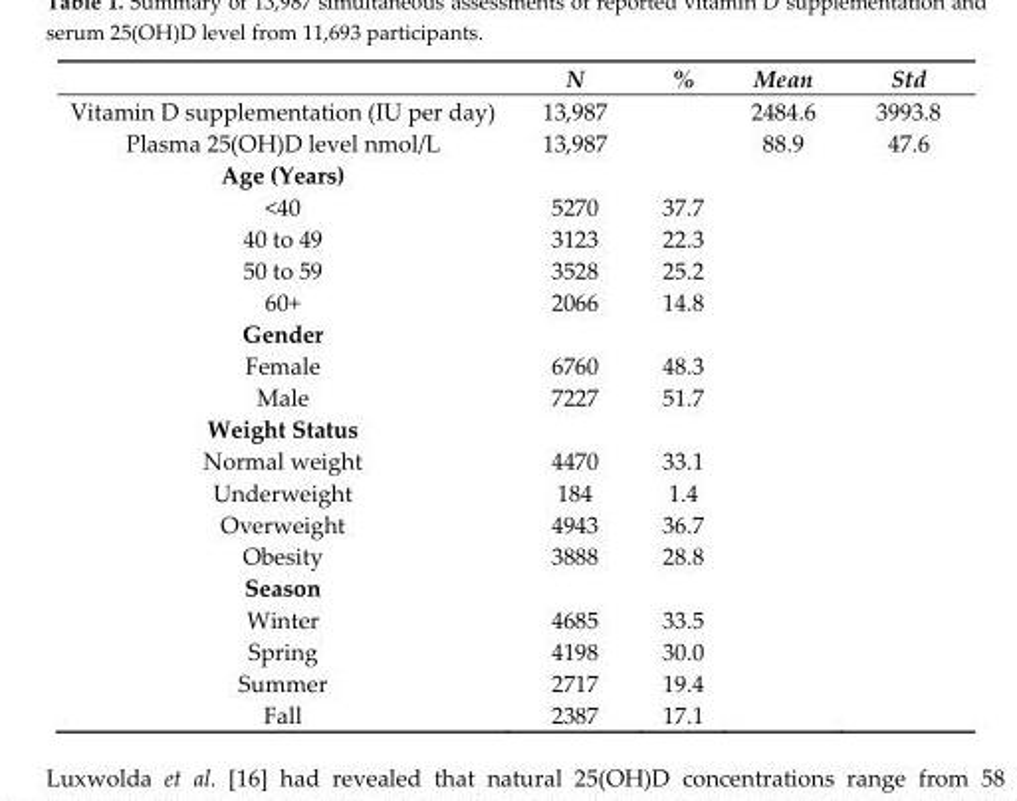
<table><thead><tr><td></td><td>N</td><td>%</td><td>Mean</td><td>Std</td></tr></thead><tbody><tr><td>Vitamin D supplementation (IU per day)</td><td>13,987</td><td></td><td>2484.6</td><td>3993.8</td></tr><tr><td>Plasma 25(OH)D level nmol/L</td><td>13,987</td><td></td><td>88.9</td><td>47.6</td></tr><tr><td colspan="5">Age (Years)</td></tr><tr><td>&lt;40</td><td>5270</td><td>37.7</td><td></td><td></td></tr><tr><td>40 to 49</td><td>3123</td><td>22.3</td><td></td><td></td></tr><tr><td>50 to 59</td><td>3528</td><td>25.2</td><td></td><td></td></tr><tr><td>60+</td><td>2066</td><td>14.8</td><td></td><td></td></tr><tr><td colspan="5">Gender</td></tr><tr><td>Female</td><td>6760</td><td>48.3</td><td></td><td></td></tr><tr><td>Male</td><td>7227</td><td>51.7</td><td></td><td></td></tr><tr><td colspan="5">Weight Status</td></tr><tr><td>Normal weight</td><td>4470</td><td>33.1</td><td></td><td></td></tr><tr><td>Underweight</td><td>184</td><td>1.4</td><td></td><td></td></tr><tr><td>Overweight</td><td>4943</td><td>36.7</td><td></td><td></td></tr><tr><td>Obesity</td><td>3888</td><td>28.8</td><td></td><td></td></tr><tr><td colspan="5">Season</td></tr><tr><td>Winter</td><td>4685</td><td>33.5</td><td></td><td></td></tr><tr><td>Spring</td><td>4198</td><td>30.0</td><td></td><td></td></tr><tr><td>Summer</td><td>2717</td><td>19.4</td><td></td><td></td></tr><tr><td>Fall</td><td>2387</td><td>17.1</td><td></td><td></td></tr></tbody></table>